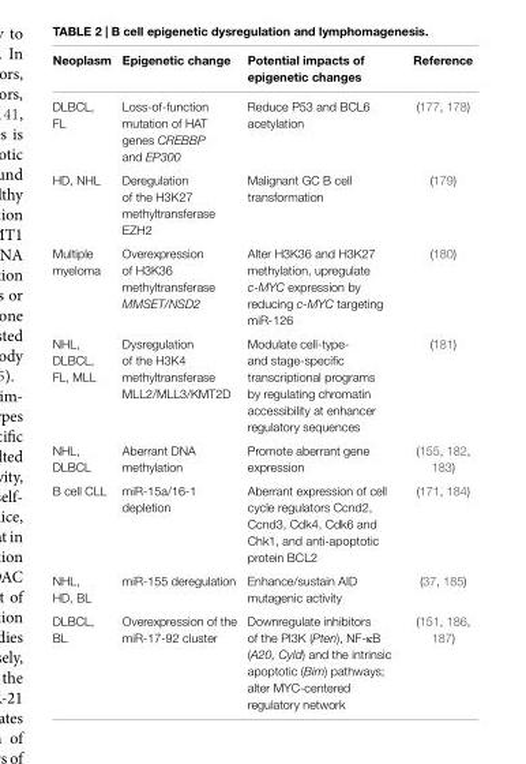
<table><thead><tr><td>Neoplasm</td><td>epigenetic change</td><td>Potential impacts of epigenetic changes</td><td>Reference</td></tr></thead><tbody><tr><td>DLBCL, FL</td><td>Loss-of-function mutation of HAT genes CREBBP and EP300</td><td>Reduce P53 and BCL6 acetylation</td><td>(177, 178)</td></tr><tr><td>HD, NHL</td><td>Deregulation of the H3K27 methyltransferase EZH2</td><td>Malignant GC B cell transformation</td><td>(179)</td></tr><tr><td>Multiple myeloma</td><td>Overexpression of H3K36 methyltransferase MMSET/NSD2</td><td>Alter H3K36 and H3K27 methylation, upregulate c-MYC expression by reducing c-MYC targeting miR-126</td><td>(180)</td></tr><tr><td>NHL, DLBCL, FL, MLL</td><td>Dysregulation of the H3K4 methyltransferase MLL2/MLL3/KMT2D</td><td>Modulate cell-type- and stage-specific transcriptional programs by regulating chromatin accessibility at enhancer regulatory sequences</td><td>(181)</td></tr><tr><td>NHL, DLBCL</td><td>Aberrant DNA methylation</td><td>Promote aberrant gene expression</td><td>(155, 182, 183)</td></tr><tr><td>B cell CLL</td><td>miR-15a/16-1 depletion</td><td>Aberrant expression of cell cycle regulators Ccnd2, Ccnd3, Cdk4, Cdk6 and Chk1, and anti-apoptotic protein BCL2</td><td>(171, 184)</td></tr><tr><td>NHL, HD, BL</td><td>miR-155 deregulation</td><td>Enhance/sustain AID mutagenic activity</td><td>(37, 185)</td></tr><tr><td>DLBCL, BL</td><td>Overexpression of the miR-17-92 cluster</td><td>Downregulate inhibitors of the PI3K (Pten), NF-κB (A20, Cyld) and the intrinsic apoptotic (Bim) pathways; alter MYC-centered regulatory network</td><td>(151, 186, 187)</td></tr></tbody></table>